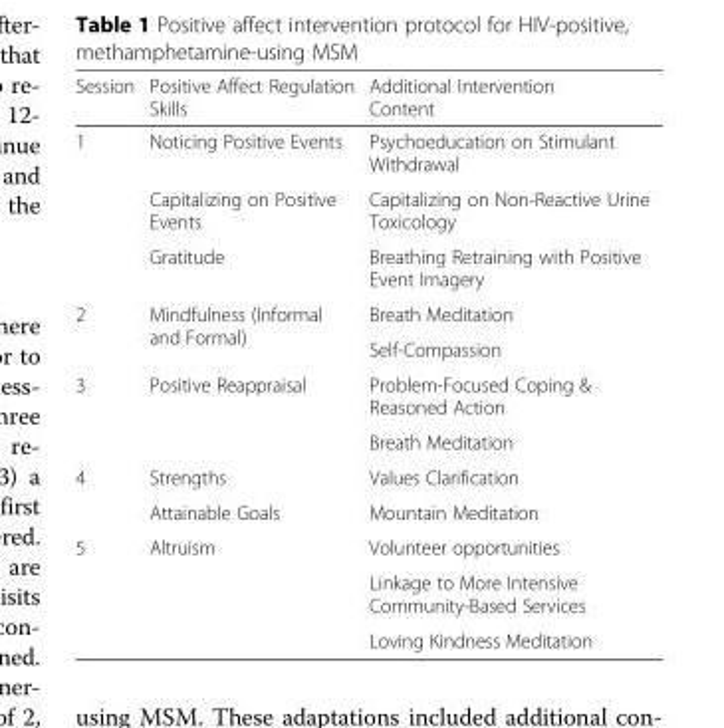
<table><thead><tr><td>Session</td><td>Positive Affect Regulation Skills</td><td>Additional Intervention Content</td></tr></thead><tbody><tr><td rowspan="3">1</td><td>Noticing Positive Events</td><td>Psychoeducation on Stimulant Withdrawal</td></tr><tr><td>Capitalizing on Positive Events</td><td>Capitalizing on Non-Reactive Urine Toxicology</td></tr><tr><td>Gratitude</td><td>Breathing Retraining with Positive Event Imagery</td></tr><tr><td rowspan="2">2</td><td rowspan="2">Mindfulness (Informal and Formal)</td><td>Breath Meditation</td></tr><tr><td>Self-Compassion</td></tr><tr><td rowspan="2">3</td><td rowspan="2">Positive Reappraisal</td><td>Problem-Focused Coping &amp; Reasoned Action</td></tr><tr><td>Breath Meditation</td></tr><tr><td rowspan="2">4</td><td>Strengths</td><td>Values Clarification</td></tr><tr><td>Attainable Goals</td><td>Mountain Meditation</td></tr><tr><td rowspan="3">5</td><td rowspan="3">Altruism</td><td>Volunteer opportunities</td></tr><tr><td>Linkage to More Intensive Community-Based Services</td></tr><tr><td>Loving Kindness Meditation</td></tr></tbody></table>